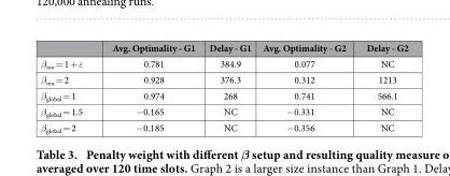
<table><thead><tr><td></td><td>Avg. Optimality - G1</td><td>Delay - G1</td><td>Avg. Optimality - G2</td><td>Delay - G2</td></tr></thead><tbody><tr><td>β<sub>mn</sub> = 1 + ε</td><td>0.781</td><td>384.9</td><td>0.077</td><td>NC</td></tr><tr><td>β<sub>mn</sub> = 2</td><td>0.928</td><td>376.3</td><td>0.312</td><td>1213</td></tr><tr><td>β<sub>global</sub> = 1</td><td>0.974</td><td>268</td><td>0.741</td><td>566.1</td></tr><tr><td>β<sub>global</sub> = 1.5</td><td>−0.165</td><td>NC</td><td>− 0.331</td><td>NC</td></tr><tr><td>β<sub>global</sub> = 2</td><td>− 0.185</td><td>NC</td><td>− 0.356</td><td>NC</td></tr></tbody></table>